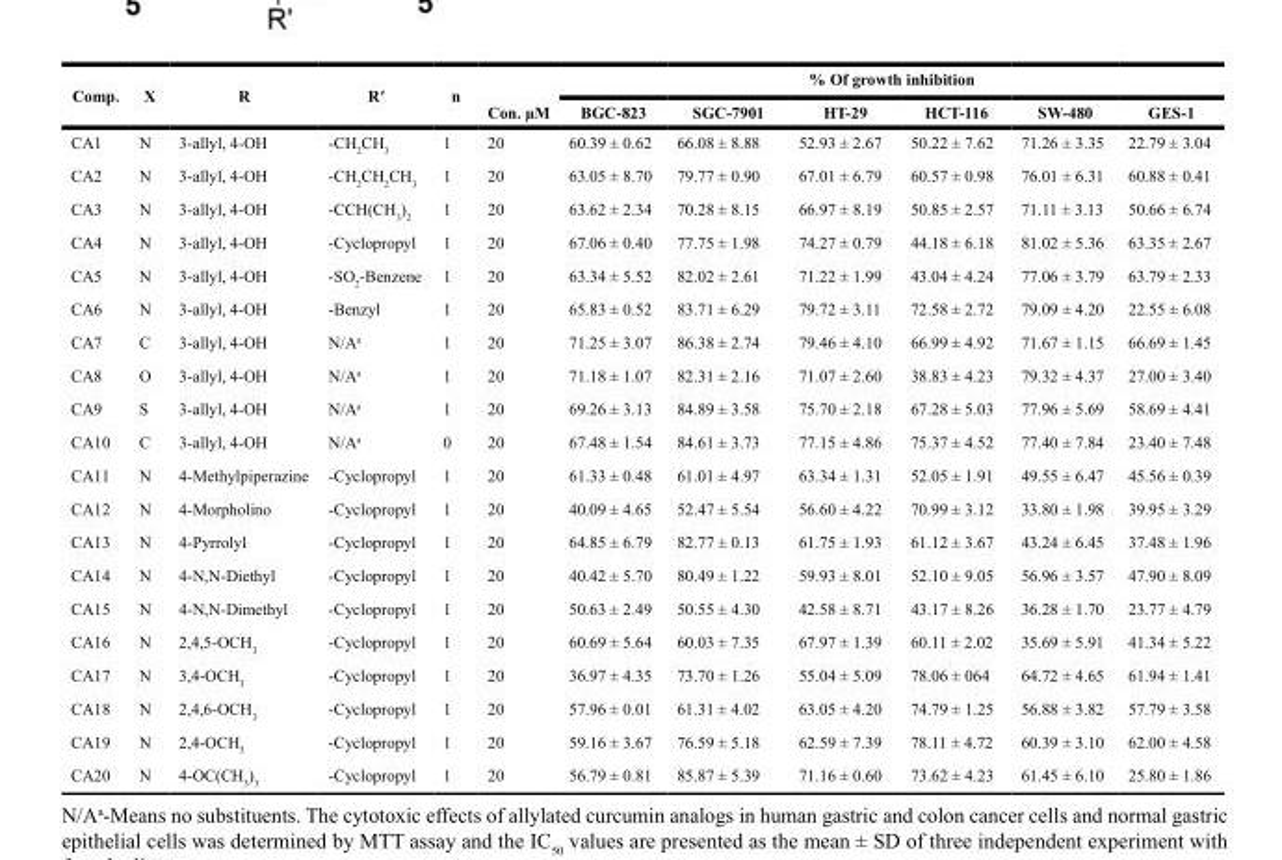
<table><thead><tr><td rowspan="2">Comp.</td><td rowspan="2">X</td><td rowspan="2">R</td><td rowspan="2">Rʹ</td><td rowspan="2">n</td><td rowspan="2">Con. µM</td><td colspan="6">% Of growth inhibition</td></tr><tr><td>BGC-823</td><td>SGC-7901</td><td>HT-29</td><td>HCT-116</td><td>SW-480</td><td>GES-1</td></tr></thead><tbody><tr><td>CA1</td><td>N</td><td>3-allyl, 4-OH</td><td>-CH<sub>2</sub>CH<sub>3</sub></td><td>1</td><td>20</td><td>60.39 ± 0.62</td><td>66.08 ± 8.88</td><td>52.93 ± 2.67</td><td>50.22 ± 7.62</td><td>71.26 ± 3.35</td><td>22.79 ± 3.04</td></tr><tr><td>CA2</td><td>N</td><td>3-allyl, 4-OH</td><td>-CH<sub>2</sub>CH<sub>2</sub>CH<sub>3</sub></td><td>1</td><td>20</td><td>63.05 ± 8.70</td><td>79.77 ± 0.90</td><td>67.01 ± 6.79</td><td>60.57 ± 0.98</td><td>76.01 ± 6.31</td><td>60.88 ± 0.41</td></tr><tr><td>CA3</td><td>N</td><td>3-allyl, 4-OH</td><td>-CCH(CH<sub>3</sub>)<sub>2</sub></td><td>1</td><td>20</td><td>63.62 ± 2.34</td><td>70.28 ± 8.15</td><td>66.97 ± 8.19</td><td>50.85 ± 2.57</td><td>71.11 ± 3.13</td><td>50.66 ± 6.74</td></tr><tr><td>CA4</td><td>N</td><td>3-allyl, 4-OH</td><td>-Cyclopropyl</td><td>1</td><td>20</td><td>67.06 ± 0.40</td><td>77.75 ± 1.98</td><td>74.27 ± 0.79</td><td>44.18 ± 6.18</td><td>81.02 ± 5.36</td><td>63.35 ± 2.67</td></tr><tr><td>CA5</td><td>N</td><td>3-allyl, 4-OH</td><td>-SO<sub>2</sub>-Benzene</td><td>1</td><td>20</td><td>63.34 ± 5.52</td><td>82.02 ± 2.61</td><td>71.22 ± 1.99</td><td>43.04 ± 4.24</td><td>77.06 ± 3.79</td><td>63.79 ± 2.33</td></tr><tr><td>CA6</td><td>N</td><td>3-allyl, 4-OH</td><td>-Benzyl</td><td>1</td><td>20</td><td>65.83 ± 0.52</td><td>83.71 ± 6.29</td><td>79.72 ± 3.11</td><td>72.58 ± 2.72</td><td>79.09 ± 4.20</td><td>22.55 ± 6.08</td></tr><tr><td>CA7</td><td>C</td><td>3-allyl, 4-OH</td><td>N/A<sup>a</sup></td><td>1</td><td>20</td><td>71.25 ± 3.07</td><td>86.38 ± 2.74</td><td>79.46 ± 4.10</td><td>66.99 ± 4.92</td><td>71.67 ± 1.15</td><td>66.69 ± 1.45</td></tr><tr><td>CA8</td><td>O</td><td>3-allyl, 4-OH</td><td>N/A<sup>a</sup></td><td>1</td><td>20</td><td>71.18 ± 1.07</td><td>82.31 ± 2.16</td><td>71.07 ± 2.60</td><td>38.83 ± 4.23</td><td>79.32 ± 4.37</td><td>27.00 ± 3.40</td></tr><tr><td>CA9</td><td>S</td><td>3-allyl, 4-OH</td><td>N/A<sup>a</sup></td><td>1</td><td>20</td><td>69.26 ± 3.13</td><td>84.89 ± 3.58</td><td>75.70 ± 2.18</td><td>67.28 ± 5.03</td><td>77.96 ± 5.69</td><td>58.69 ± 4.41</td></tr><tr><td>CA10</td><td>C</td><td>3-allyl, 4-OH</td><td>N/A<sup>a</sup></td><td>0</td><td>20</td><td>67.48 ± 1.54</td><td>84.61 ± 3.73</td><td>77.15 ± 4.86</td><td>75.37 ± 4.52</td><td>77.40 ± 7.84</td><td>23.40 ± 7.48</td></tr><tr><td>CA11</td><td>N</td><td>4-Methylpiperazine</td><td>-Cyclopropyl</td><td>1</td><td>20</td><td>61.33 ± 0.48</td><td>61.01 ± 4.97</td><td>63.34 ± 1.31</td><td>52.05 ± 1.91</td><td>49.55 ± 6.47</td><td>45.56 ± 0.39</td></tr><tr><td>CA12</td><td>N</td><td>4-Morpholino</td><td>-Cyclopropyl</td><td>1</td><td>20</td><td>40.09 ± 4.65</td><td>52.47 ± 5.54</td><td>56.60 ± 4.22</td><td>70.99 ± 3.12</td><td>33.80 ± 1.98</td><td>39.95 ± 3.29</td></tr><tr><td>CA13</td><td>N</td><td>4-Pyrrolyl</td><td>-Cyclopropyl</td><td>1</td><td>20</td><td>64.85 ± 6.79</td><td>82.77 ± 0.13</td><td>61.75 ± 1.93</td><td>61.12 ± 3.67</td><td>43.24 ± 6.45</td><td>37.48 ± 1.96</td></tr><tr><td>CA14</td><td>N</td><td>4-N,N-Diethyl</td><td>-Cyclopropyl</td><td>1</td><td>20</td><td>40.42 ± 5.70</td><td>80.49 ± 1.22</td><td>59.93 ± 8.01</td><td>52.10 ± 9.05</td><td>56.96 ± 3.57</td><td>47.90 ± 8.09</td></tr><tr><td>CA15</td><td>N</td><td>4-N,N-Dimethyl</td><td>-Cyclopropyl</td><td>1</td><td>20</td><td>50.63 ± 2.49</td><td>50.55 ± 4.30</td><td>42.58 ± 8.71</td><td>43.17 ± 8.26</td><td>36.28 ± 1.70</td><td>23.77 ± 4.79</td></tr><tr><td>CA16</td><td>N</td><td>2,4,5-OCH<sub>3</sub></td><td>-Cyclopropyl</td><td>1</td><td>20</td><td>60.69 ± 5.64</td><td>60.03 ± 7.35</td><td>67.97 ± 1.39</td><td>60.11 ± 2.02</td><td>35.69 ± 5.91</td><td>41.34 ± 5.22</td></tr><tr><td>CA17</td><td>N</td><td>3,4-OCH<sub>3</sub></td><td>-Cyclopropyl</td><td>1</td><td>20</td><td>36.97 ± 4.35</td><td>73.70 ± 1.26</td><td>55.04 ± 5.09</td><td>78.06 ± 064</td><td>64.72 ± 4.65</td><td>61.94 ± 1.41</td></tr><tr><td>CA18</td><td>N</td><td>2,4,6-OCH<sub>3</sub></td><td>-Cyclopropyl</td><td>1</td><td>20</td><td>57.96 ± 0.01</td><td>61.31 ± 4.02</td><td>63.05 ± 4.20</td><td>74.79 ± 1.25</td><td>56.88 ± 3.82</td><td>57.79 ± 3.58</td></tr><tr><td>CA19</td><td>N</td><td>2,4-OCH<sub>3</sub></td><td>-Cyclopropyl</td><td>1</td><td>20</td><td>59.16 ± 3.67</td><td>76.59 ± 5.18</td><td>62.59 ± 7.39</td><td>78.11 ± 4.72</td><td>60.39 ± 3.10</td><td>62.00 ± 4.58</td></tr><tr><td>CA20</td><td>N</td><td>4-OC(CH<sub>3</sub>)<sub>3</sub></td><td>-Cyclopropyl</td><td>1</td><td>20</td><td>56.79 ± 0.81</td><td>85.87 ± 5.39</td><td>71.16 ± 0.60</td><td>73.62 ± 4.23</td><td>61.45 ± 6.10</td><td>25.80 ± 1.86</td></tr></tbody></table>